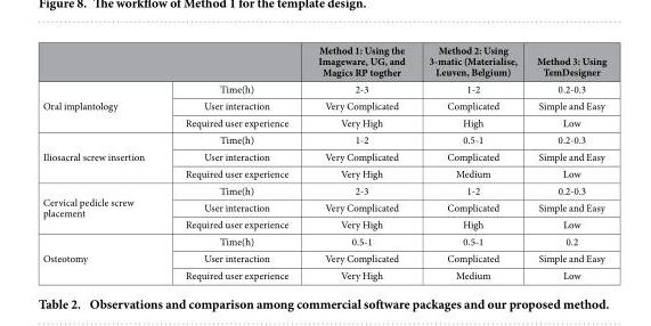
<table><thead><tr><td></td><td></td><td>Method 1: Using the Imageware, UG, and Magics RP togther</td><td>Method 2: Using 3-matic (Materialise, Leuven, Belgium)</td><td>Method 3: Using TemDesigner</td></tr></thead><tbody><tr><td rowspan="3">Oral implantology</td><td>Time(h)</td><td>2-3</td><td>1-2</td><td>0.2-0.3</td></tr><tr><td>User interaction</td><td>Very Complicated</td><td>Complicated</td><td>Simple and Easy</td></tr><tr><td>Required user experience</td><td>Very High</td><td>High</td><td>Low</td></tr><tr><td rowspan="3">Iliosacral screw insertion</td><td>Time(h)</td><td>1-2</td><td>0.5-1</td><td>0.2-0.3</td></tr><tr><td>User interaction</td><td>Very Complicated</td><td>Complicated</td><td>Simple and Easy</td></tr><tr><td>Required user experience</td><td>Very High</td><td>Medium</td><td>Low</td></tr><tr><td rowspan="3">Cervical pedicle screw placement</td><td>Time(h)</td><td>2-3</td><td>1-2</td><td>0.2-0.3</td></tr><tr><td>User interaction</td><td>Very Complicated</td><td>Complicated</td><td>Simple and Easy</td></tr><tr><td>Required user experience</td><td>Very High</td><td>High</td><td>Low</td></tr><tr><td rowspan="3">Osteotomy</td><td>Time(h)</td><td>0.5-1</td><td>0.5-1</td><td>0.2</td></tr><tr><td>User interaction</td><td>Very Complicated</td><td>Complicated</td><td>Simple and Easy</td></tr><tr><td>Required user experience</td><td>Very High</td><td>Medium</td><td>Low</td></tr></tbody></table>